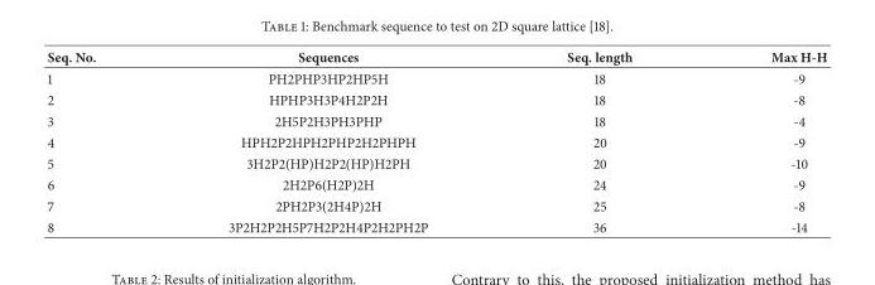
<table><thead><tr><td>Seq. No.</td><td>Sequences</td><td>Seq. length</td><td>Max H-H</td></tr></thead><tbody><tr><td>1</td><td>PH2PHP3HP2HP5H</td><td>18</td><td>-9</td></tr><tr><td>2</td><td>HPHP3H3P4H2P2H</td><td>18</td><td>-8</td></tr><tr><td>3</td><td>2H5P2H3PH3PHP</td><td>18</td><td>-4</td></tr><tr><td>4</td><td>HPH2P2HPH2PHP2H2PHPH</td><td>20</td><td>-9</td></tr><tr><td>5</td><td>3H2P2(HP)H2P2(HP)H2PH</td><td>20</td><td>-10</td></tr><tr><td>6</td><td>2H2P6(H2P)2H</td><td>24</td><td>-9</td></tr><tr><td>7</td><td>2PH2P3(2H4P)2H</td><td>25</td><td>-8</td></tr><tr><td>8</td><td>3P2H2P2H5P7H2P2H4P2H2PH2P</td><td>36</td><td>-14</td></tr></tbody></table>